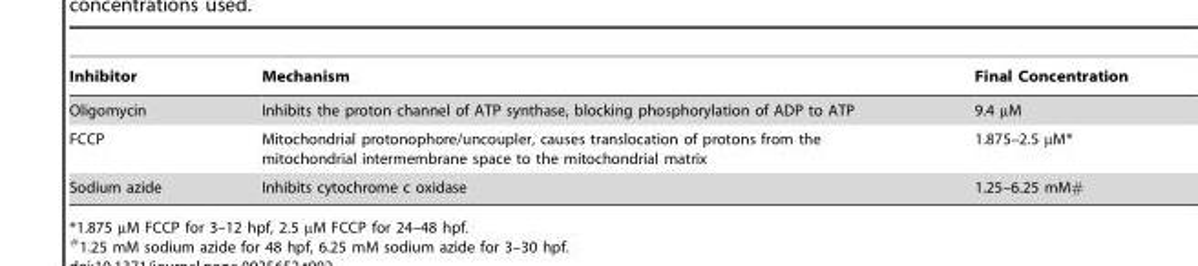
<table><thead><tr><td>Inhibitor</td><td>Mechanism</td><td>Final Concentration</td></tr></thead><tbody><tr><td>Oligomycin</td><td>Inhibits the proton channel of ATP synthase, blocking phosphorylation of ADP to ATP</td><td>9.4 µM</td></tr><tr><td>FCCP</td><td>Mitochondrial protonophore/uncoupler, causes translocation of protons from the mitochondrial intermembrane space to the mitochondrial matrix</td><td>1.875–2.5 µM*</td></tr><tr><td>Sodium azide</td><td>Inhibits cytochrome c oxidase</td><td>1.25–6.25 mM#</td></tr></tbody></table>